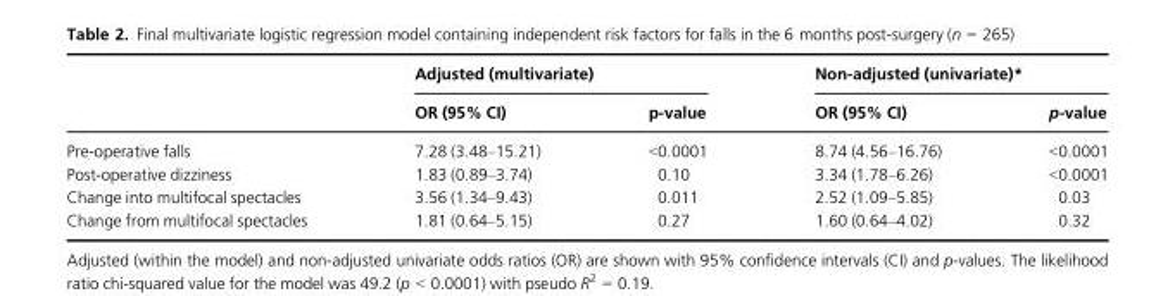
<table><thead><tr><td rowspan="2"></td><td colspan="2">Adjusted (multivariate)</td><td colspan="2">Non-adjusted (univariate)*</td></tr><tr><td>OR (95% CI)</td><td>p-value</td><td>OR (95% CI)</td><td>p-value</td></tr></thead><tbody><tr><td>Pre-operative falls</td><td>7.28 (3.48–15.21)</td><td>&lt;0.0001</td><td>8.74 (4.56–16.76)</td><td>&lt;0.0001</td></tr><tr><td>Post-operative dizziness</td><td>1.83 (0.89–3.74)</td><td>0.10</td><td>3.34 (1.78–6.26)</td><td>&lt;0.0001</td></tr><tr><td>Change into multifocal spectacles</td><td>3.56 (1.34–9.43)</td><td>0.011</td><td>2.52 (1.09–5.85)</td><td>0.03</td></tr><tr><td>Change from multifocal spectacles</td><td>1.81 (0.64–5.15)</td><td>0.27</td><td>1.60 (0.64–4.02)</td><td>0.32</td></tr></tbody></table>